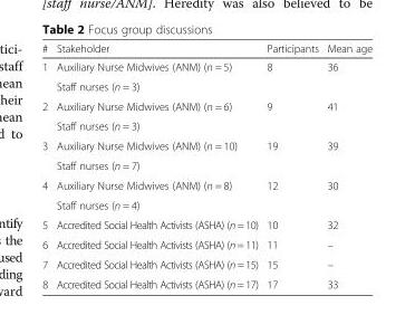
<table><thead><tr><td>#</td><td>Stakeholder</td><td>Participants</td><td>Mean age</td></tr></thead><tbody><tr><td rowspan="2">1</td><td>Auxiliary Nurse Midwives (ANM) (n = 5)</td><td rowspan="2">8</td><td rowspan="2">36</td></tr><tr><td>Staff nurses (n = 3)</td></tr><tr><td rowspan="2">2</td><td>Auxiliary Nurse Midwives (ANM) (n = 6)</td><td rowspan="2">9</td><td rowspan="2">41</td></tr><tr><td>Staff nurses (n = 3)</td></tr><tr><td rowspan="2">3</td><td>Auxiliary Nurse Midwives (ANM) (n = 10)</td><td rowspan="2">19</td><td rowspan="2">39</td></tr><tr><td>Staff nurses (n = 7)</td></tr><tr><td rowspan="2">4</td><td>Auxiliary Nurse Midwives (ANM) (n = 8)</td><td rowspan="2">12</td><td rowspan="2">30</td></tr><tr><td>Staff nurses (n = 4)</td></tr><tr><td>5</td><td>Accredited Social Health Activists (ASHA) (n = 10)</td><td>10</td><td>32</td></tr><tr><td>6</td><td>Accredited Social Health Activists (ASHA) (n = 11)</td><td>11</td><td>–</td></tr><tr><td>7</td><td>Accredited Social Health Activists (ASHA) (n = 15)</td><td>15</td><td>–</td></tr><tr><td>8</td><td>Accredited Social Health Activists (ASHA) (n = 17)</td><td>17</td><td>33</td></tr></tbody></table>